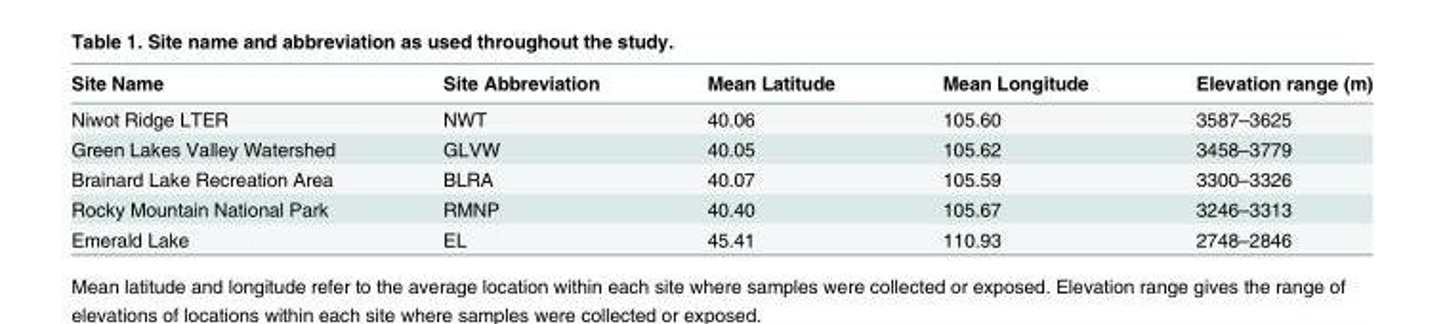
<table><thead><tr><td>Site Name</td><td>Site Abbreviation</td><td>Mean Latitude</td><td>Mean Longitude</td><td>Elevation range (m)</td></tr></thead><tbody><tr><td>Niwot Ridge LTER</td><td>NWT</td><td>40.06</td><td>105.60</td><td>3587–3625</td></tr><tr><td>Green Lakes Valley Watershed</td><td>GLVW</td><td>40.05</td><td>105.62</td><td>3458–3779</td></tr><tr><td>Brainard Lake Recreation Area</td><td>BLRA</td><td>40.07</td><td>105.59</td><td>3300–3326</td></tr><tr><td>Rocky Mountain National Park</td><td>RMNP</td><td>40.40</td><td>105.67</td><td>3246–3313</td></tr><tr><td>Emerald Lake</td><td>EL</td><td>45.41</td><td>110.93</td><td>2748–2846</td></tr></tbody></table>